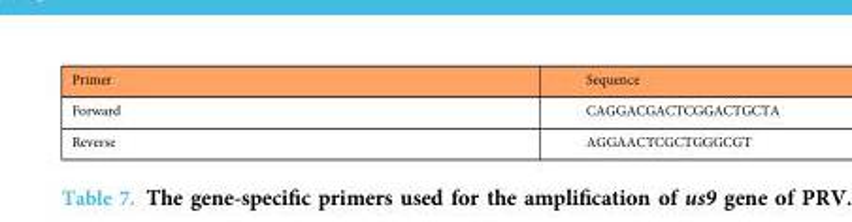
<table><thead><tr><td>Primer</td><td>Sequence</td></tr></thead><tbody><tr><td>Forward</td><td>CAGGACGACTCGGACTGCTA</td></tr><tr><td>Reverse</td><td>AGGAACTCGCTGGGCGT</td></tr></tbody></table>